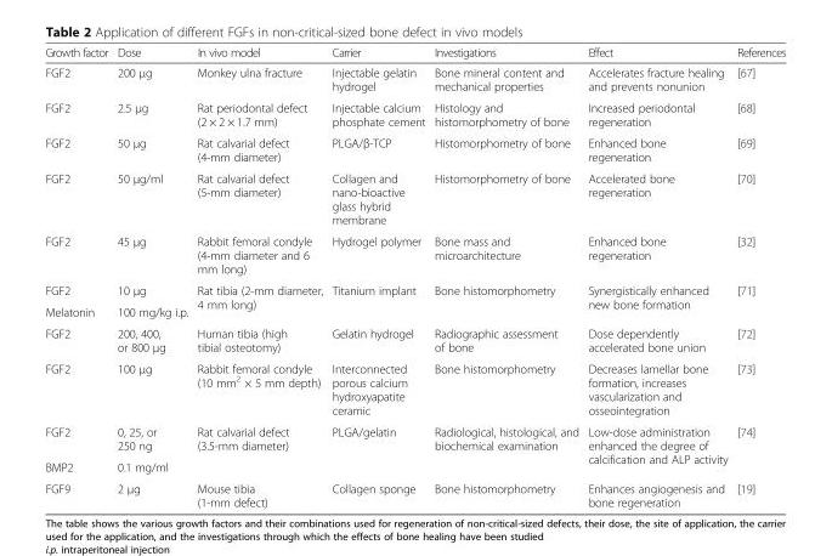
<table><thead><tr><td>Growth factor</td><td>Dose</td><td>In vivo model</td><td>Carrier</td><td>Investigations</td><td>Effect</td><td>References</td></tr></thead><tbody><tr><td>FGF2</td><td>200 μg</td><td>Monkey ulna fracture</td><td>Injectable gelatin hydrogel</td><td>Bone mineral content and mechanical properties</td><td>Accelerates fracture healing and prevents nonunion</td><td>[67]</td></tr><tr><td>FGF2</td><td>2.5 μg</td><td>Rat periodontal defect (2 × 2 × 1.7 mm)</td><td>Injectable calcium phosphate cement</td><td>Histology and histomorphometry of bone</td><td>Increased periodontal regeneration</td><td>[68]</td></tr><tr><td>FGF2</td><td>50 μg</td><td>Rat calvarial defect (4-mm diameter)</td><td>PLGA/β-TCP</td><td>Histomorphometry of bone</td><td>Enhanced bone regeneration</td><td>[69]</td></tr><tr><td>FGF2</td><td>50 μg/ml</td><td>Rat calvarial defect (5-mm diameter)</td><td>Collagen and nano-bioactive glass hybrid membrane</td><td>Histomorphometry of bone</td><td>Accelerated bone regeneration</td><td>[70]</td></tr><tr><td>FGF2</td><td>45 μg</td><td>Rabbit femoral condyle (4-mm diameter and 6 mm long)</td><td>Hydrogel polymer</td><td>Bone mass and microarchitecture</td><td>Enhanced bone regeneration</td><td>[32]</td></tr><tr><td>FGF2</td><td>10 μg</td><td rowspan="2">Rat tibia (2-mm diameter, 4 mm long)</td><td rowspan="2">Titanium implant</td><td rowspan="2">Bone histomorphometry</td><td rowspan="2">Synergistically enhanced new bone formation</td><td rowspan="2">[71]</td></tr><tr><td>Melatonin</td><td>100 mg/kg i.p.</td></tr><tr><td>FGF2</td><td>200, 400, or 800 μg</td><td>Human tibia (high tibial osteotomy)</td><td>Gelatin hydrogel</td><td>Radiographic assessment of bone</td><td>Dose dependently accelerated bone union</td><td>[72]</td></tr><tr><td>FGF2</td><td>100 μg</td><td>Rabbit femoral condyle (10 mm<sup>2</sup> × 5 mm depth)</td><td>Interconnected porous calcium hydroxyapatite ceramic</td><td>Bone histomorphometry</td><td>Decreases lamellar bone formation, increases vascularization and osseointegration</td><td>[73]</td></tr><tr><td>FGF2</td><td>0, 25, or 250 ng</td><td rowspan="2">Rat calvarial defect (3.5-mm diameter)</td><td rowspan="2">PLGA/gelatin</td><td rowspan="2">Radiological, histological, and biochemical examination</td><td rowspan="2">Low-dose administration enhanced the degree of calcification and ALP activity</td><td rowspan="2">[74]</td></tr><tr><td>BMP2</td><td>0.1 mg/ml</td></tr><tr><td>FGF9</td><td>2 μg</td><td>Mouse tibia (1-mm defect)</td><td>Collagen sponge</td><td>Bone histomorphometry</td><td>Enhances angiogenesis and bone regeneration</td><td>[19]</td></tr></tbody></table>